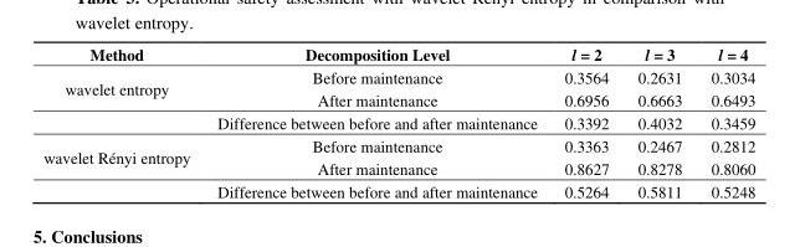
<table><thead><tr><td>Method</td><td>Decomposition Level</td><td>l = 2</td><td>l = 3</td><td>l = 4</td></tr></thead><tbody><tr><td rowspan="3">wavelet entropy</td><td>Before maintenance</td><td>0.3564</td><td>0.2631</td><td>0.3034</td></tr><tr><td>After maintenance</td><td>0.6956</td><td>0.6663</td><td>0.6493</td></tr><tr><td>Difference between before and after maintenance</td><td>0.3392</td><td>0.4032</td><td>0.3459</td></tr><tr><td rowspan="3">wavelet Rényi entropy</td><td>Before maintenance</td><td>0.3363</td><td>0.2467</td><td>0.2812</td></tr><tr><td>After maintenance</td><td>0.8627</td><td>0.8278</td><td>0.8060</td></tr><tr><td>Difference between before and after maintenance</td><td>0.5264</td><td>0.5811</td><td>0.5248</td></tr></tbody></table>